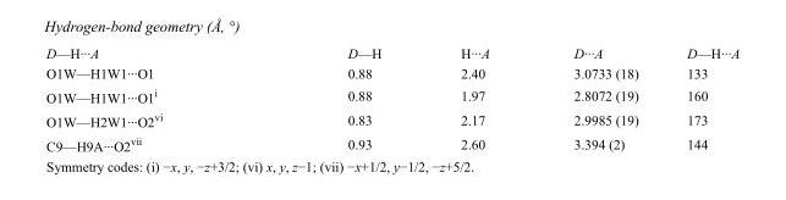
<table><tbody><tr><td>D—H···A</td><td>D—H</td><td>H···A</td><td>D···A</td><td>D—H···A</td></tr><tr><td>O1W—H1W1···O1</td><td>0.88</td><td>2.40</td><td>3.0733 (18)</td><td>133</td></tr><tr><td>O1W—H1W1···O1<sup>i</sup></td><td>0.88</td><td>1.97</td><td>2.8072 (19)</td><td>160</td></tr><tr><td>O1W—H2W1···O2<sup>vi</sup></td><td>0.83</td><td>2.17</td><td>2.9985 (19)</td><td>173</td></tr><tr><td>C9—H9A···O2<sup>vii</sup></td><td>0.93</td><td>2.60</td><td>3.394 (2)</td><td>144</td></tr></tbody></table>